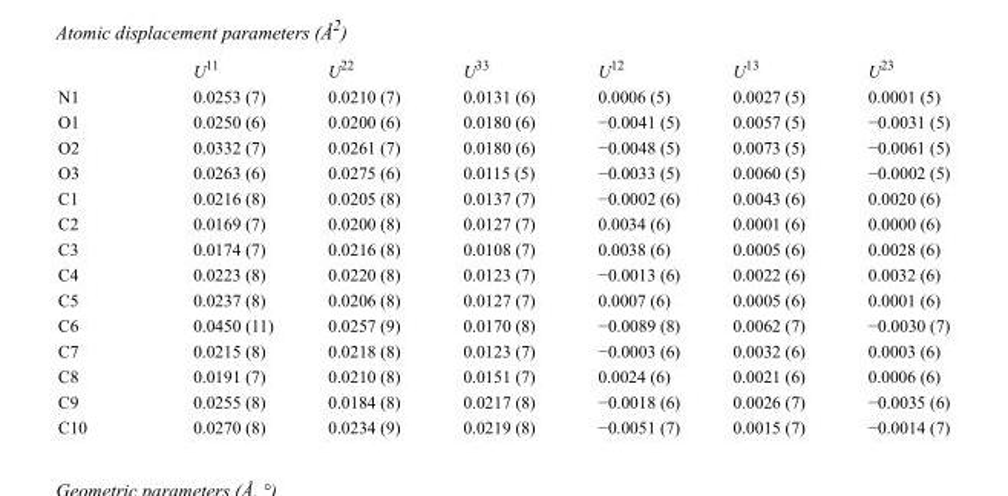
<table><thead><tr><td></td><td>U<sup>11</sup></td><td>U<sup>22</sup></td><td>U<sup>33</sup></td><td>U<sup>12</sup></td><td>U<sup>13</sup></td><td>U<sup>23</sup></td></tr></thead><tbody><tr><td>N1</td><td>0.0253 (7)</td><td>0.0210 (7)</td><td>0.0131 (6)</td><td>0.0006 (5)</td><td>0.0027 (5)</td><td>0.0001 (5)</td></tr><tr><td>O1</td><td>0.0250 (6)</td><td>0.0200 (6)</td><td>0.0180 (6)</td><td>−0.0041 (5)</td><td>0.0057 (5)</td><td>−0.0031 (5)</td></tr><tr><td>O2</td><td>0.0332 (7)</td><td>0.0261 (7)</td><td>0.0180 (6)</td><td>−0.0048 (5)</td><td>0.0073 (5)</td><td>−0.0061 (5)</td></tr><tr><td>O3</td><td>0.0263 (6)</td><td>0.0275 (6)</td><td>0.0115 (5)</td><td>−0.0033 (5)</td><td>0.0060 (5)</td><td>−0.0002 (5)</td></tr><tr><td>C1</td><td>0.0216 (8)</td><td>0.0205 (8)</td><td>0.0137 (7)</td><td>−0.0002 (6)</td><td>0.0043 (6)</td><td>0.0020 (6)</td></tr><tr><td>C2</td><td>0.0169 (7)</td><td>0.0200 (8)</td><td>0.0127 (7)</td><td>0.0034 (6)</td><td>0.0001 (6)</td><td>0.0000 (6)</td></tr><tr><td>C3</td><td>0.0174 (7)</td><td>0.0216 (8)</td><td>0.0108 (7)</td><td>0.0038 (6)</td><td>0.0005 (6)</td><td>0.0028 (6)</td></tr><tr><td>C4</td><td>0.0223 (8)</td><td>0.0220 (8)</td><td>0.0123 (7)</td><td>−0.0013 (6)</td><td>0.0022 (6)</td><td>0.0032 (6)</td></tr><tr><td>C5</td><td>0.0237 (8)</td><td>0.0206 (8)</td><td>0.0127 (7)</td><td>0.0007 (6)</td><td>0.0005 (6)</td><td>0.0001 (6)</td></tr><tr><td>C6</td><td>0.0450 (11)</td><td>0.0257 (9)</td><td>0.0170 (8)</td><td>−0.0089 (8)</td><td>0.0062 (7)</td><td>−0.0030 (7)</td></tr><tr><td>C7</td><td>0.0215 (8)</td><td>0.0218 (8)</td><td>0.0123 (7)</td><td>−0.0003 (6)</td><td>0.0032 (6)</td><td>0.0003 (6)</td></tr><tr><td>C8</td><td>0.0191 (7)</td><td>0.0210 (8)</td><td>0.0151 (7)</td><td>0.0024 (6)</td><td>0.0021 (6)</td><td>0.0006 (6)</td></tr><tr><td>C9</td><td>0.0255 (8)</td><td>0.0184 (8)</td><td>0.0217 (8)</td><td>−0.0018 (6)</td><td>0.0026 (7)</td><td>−0.0035 (6)</td></tr><tr><td>C10</td><td>0.0270 (8)</td><td>0.0234 (9)</td><td>0.0219 (8)</td><td>−0.0051 (7)</td><td>0.0015 (7)</td><td>−0.0014 (7)</td></tr></tbody></table>